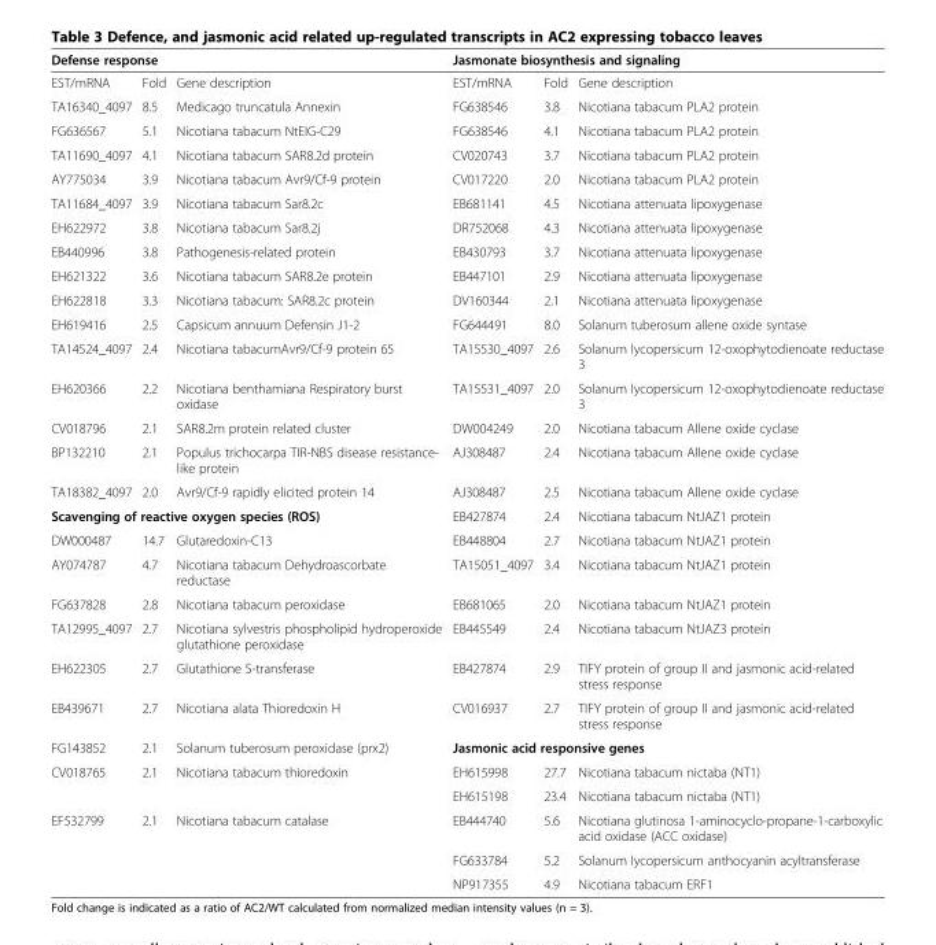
<table><thead><tr><td colspan="3">Defense response</td><td colspan="3">Jasmonate biosynthesis and signaling</td></tr><tr><td>EST/mRNA</td><td>Fold</td><td>Gene description</td><td>EST/mRNA</td><td>Fold</td><td>Gene description</td></tr></thead><tbody><tr><td>TA16340_4097</td><td>8.5</td><td>Medicago truncatula Annexin</td><td>FG638546</td><td>3.8</td><td>Nicotiana tabacum PLA2 protein</td></tr><tr><td>FG636567</td><td>5.1</td><td>Nicotiana tabacum NtEIG-C29</td><td>FG638546</td><td>4.1</td><td>Nicotiana tabacum PLA2 protein</td></tr><tr><td>TA11690_4097</td><td>4.1</td><td>Nicotiana tabacum SAR8.2d protein</td><td>CV020743</td><td>3.7</td><td>Nicotiana tabacum PLA2 protein</td></tr><tr><td>AY775034</td><td>3.9</td><td>Nicotiana tabacum Avr9/Cf-9 protein</td><td>CV017220</td><td>2.0</td><td>Nicotiana tabacum PLA2 protein</td></tr><tr><td>TA11684_4097</td><td>3.9</td><td>Nicotiana tabacum Sar8.2c</td><td>EB681141</td><td>4.5</td><td>Nicotiana attenuata lipoxygenase</td></tr><tr><td>EH622972</td><td>3.8</td><td>Nicotiana tabacum Sar8.2j</td><td>DR752068</td><td>4.3</td><td>Nicotiana attenuata lipoxygenase</td></tr><tr><td>EB440996</td><td>3.8</td><td>Pathogenesis-related protein</td><td>EB430793</td><td>3.7</td><td>Nicotiana attenuata lipoxygenase</td></tr><tr><td>EH621322</td><td>3.6</td><td>Nicotiana tabacum SAR8.2e protein</td><td>EB447101</td><td>2.9</td><td>Nicotiana attenuata lipoxygenase</td></tr><tr><td>EH622818</td><td>3.3</td><td>Nicotiana tabacum: SAR8.2c protein</td><td>DV160344</td><td>2.1</td><td>Nicotiana attenuata lipoxygenase</td></tr><tr><td>EH619416</td><td>2.5</td><td>Capsicum annuum Defensin J1-2</td><td>FG644491</td><td>8.0</td><td>Solanum tuberosum allene oxide syntase</td></tr><tr><td>TA14524_4097</td><td>2.4</td><td>Nicotiana tabacumAvr9/Cf-9 protein 65</td><td>TA15530_4097</td><td>2.6</td><td>Solanum lycopersicum 12-oxophytodienoate reductase 3</td></tr><tr><td>EH620366</td><td>2.2</td><td>Nicotiana benthamiana Respiratory burst oxidase</td><td>TA15531_4097</td><td>2.0</td><td>Solanum lycopersicum 12-oxophytodienoate reductase 3</td></tr><tr><td>CV018796</td><td>2.1</td><td>SAR8.2m protein related cluster</td><td>DW004249</td><td>2.0</td><td>Nicotiana tabacum Allene oxide cyclase</td></tr><tr><td>BP132210</td><td>2.1</td><td>Populus trichocarpa TIR-NBS disease resistance- like protein</td><td>AJ308487</td><td>2.4</td><td>Nicotiana tabacum Allene oxide cyclase</td></tr><tr><td>TA18382_4097</td><td>2.0</td><td>Avr9/Cf-9 rapidly elicited protein 14</td><td>AJ308487</td><td>2.5</td><td>Nicotiana tabacum Allene oxide cyclase</td></tr><tr><td colspan="3">Scavenging of reactive oxygen species (ROS)</td><td>EB427874</td><td>2.4</td><td>Nicotiana tabacum NtJAZ1 protein</td></tr><tr><td>DW000487</td><td>14.7</td><td>Glutaredoxin-C13</td><td>EB448804</td><td>2.7</td><td>Nicotiana tabacum NtJAZ1 protein</td></tr><tr><td>AY074787</td><td>4.7</td><td>Nicotiana tabacum Dehydroascorbate reductase</td><td>TA15051_4097</td><td>3.4</td><td>Nicotiana tabacum NtJAZ1 protein</td></tr><tr><td>FG637828</td><td>2.8</td><td>Nicotiana tabacum peroxidase</td><td>EB681065</td><td>2.0</td><td>Nicotiana tabacum NtJAZ1 protein</td></tr><tr><td>TA12995_4097</td><td>2.7</td><td>Nicotiana sylvestris phospholipid hydroperoxide glutathione peroxidase</td><td>EB445549</td><td>2.4</td><td>Nicotiana tabacum NtJAZ3 protein</td></tr><tr><td>EH622305</td><td>2.7</td><td>Glutathione S-transferase</td><td>EB427874</td><td>2.9</td><td>TIFY protein of group II and jasmonic acid-related stress response</td></tr><tr><td>EB439671</td><td>2.7</td><td>Nicotiana alata Thioredoxin H</td><td>CV016937</td><td>2.7</td><td>TIFY protein of group II and jasmonic acid-related stress response</td></tr><tr><td>FG143852</td><td>2.1</td><td>Solanum tuberosum peroxidase (prx2)</td><td colspan="3">Jasmonic acid responsive genes</td></tr><tr><td>CV018765</td><td>2.1</td><td>Nicotiana tabacum thioredoxin</td><td>EH615998</td><td>27.7</td><td>Nicotiana tabacum nictaba (NT1)</td></tr><tr><td colspan="3"></td><td>EH615198</td><td>23.4</td><td>Nicotiana tabacum nictaba (NT1)</td></tr><tr><td rowspan="3">EF532799</td><td>2.1</td><td>Nicotiana tabacum catalase</td><td>EB444740</td><td>5.6</td><td>Nicotiana glutinosa 1-aminocyclo-propane-1-carboxylic acid oxidase (ACC oxidase)</td></tr><tr><td></td><td></td><td>FG633784</td><td>5.2</td><td>Solanum lycopersicum anthocyanin acyltransferase</td></tr><tr><td></td><td></td><td>NP917355</td><td>4.9</td><td>Nicotiana tabacum ERF1</td></tr></tbody></table>